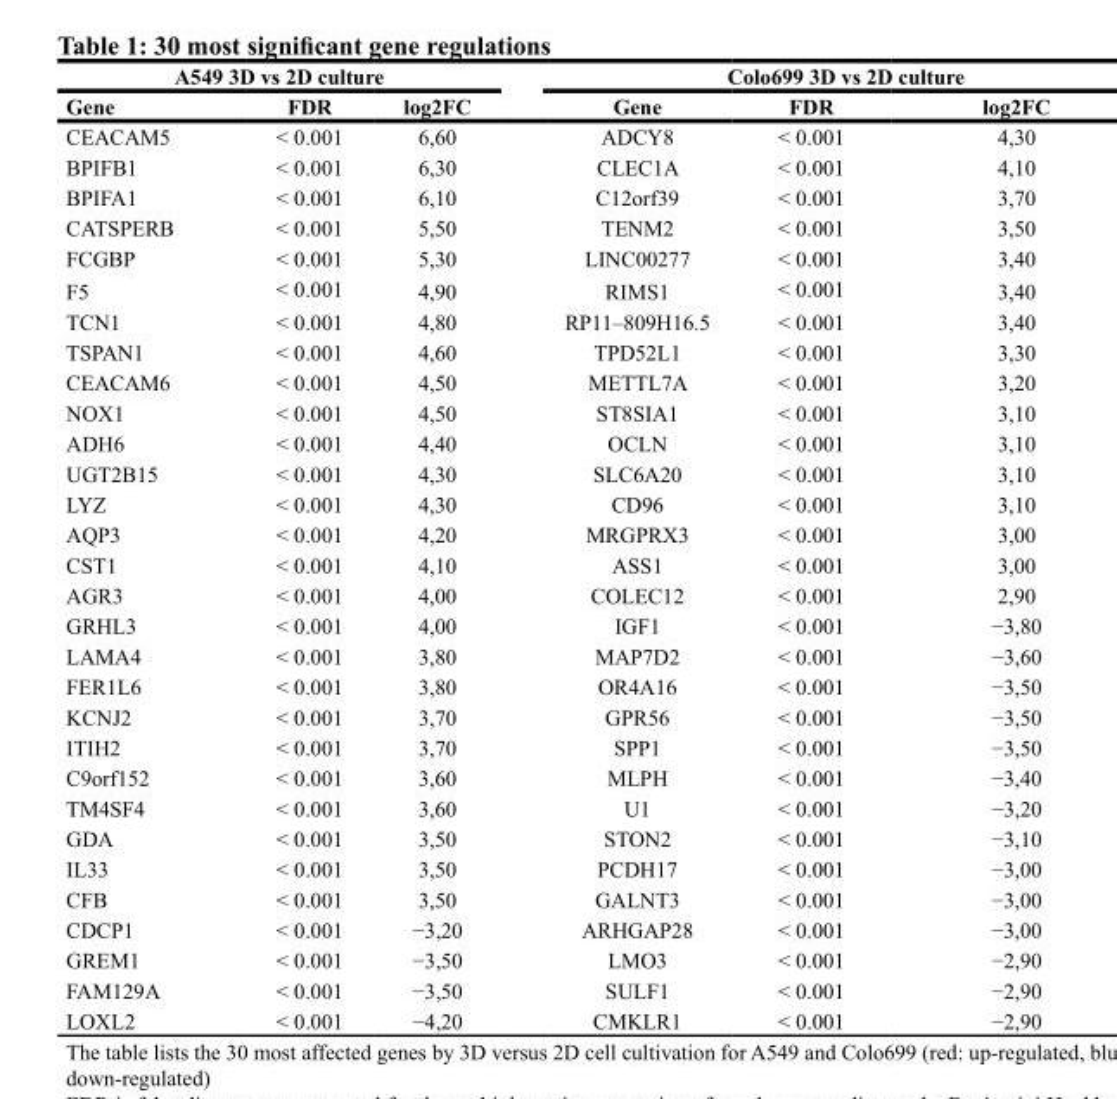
<table><thead><tr><td colspan="3">A549 3D vs 2D culture</td><td colspan="3">Colo699 3D vs 2D culture</td></tr><tr><td>Gene</td><td>FDR</td><td>log2FC</td><td>Gene</td><td>FDR</td><td>log2FC</td></tr></thead><tbody><tr><td>CEACAM5</td><td>&lt; 0.001</td><td>6,60</td><td>ADCY8</td><td>&lt; 0.001</td><td>4,30</td></tr><tr><td>BPIFB1</td><td>&lt; 0.001</td><td>6,30</td><td>CLEC1A</td><td>&lt; 0.001</td><td>4,10</td></tr><tr><td>BPIFA1</td><td>&lt; 0.001</td><td>6,10</td><td>C12orf39</td><td>&lt; 0.001</td><td>3,70</td></tr><tr><td>CATSPERB</td><td>&lt; 0.001</td><td>5,50</td><td>TENM2</td><td>&lt; 0.001</td><td>3,50</td></tr><tr><td>FCGBP</td><td>&lt; 0.001</td><td>5,30</td><td>LINC00277</td><td>&lt; 0.001</td><td>3,40</td></tr><tr><td>F5</td><td>&lt; 0.001</td><td>4,90</td><td>RIMS1</td><td>&lt; 0.001</td><td>3,40</td></tr><tr><td>TCN1</td><td>&lt; 0.001</td><td>4,80</td><td>RP11–809H16.5</td><td>&lt; 0.001</td><td>3,40</td></tr><tr><td>TSPAN1</td><td>&lt; 0.001</td><td>4,60</td><td>TPD52L1</td><td>&lt; 0.001</td><td>3,30</td></tr><tr><td>CEACAM6</td><td>&lt; 0.001</td><td>4,50</td><td>METTL7A</td><td>&lt; 0.001</td><td>3,20</td></tr><tr><td>NOX1</td><td>&lt; 0.001</td><td>4,50</td><td>ST8SIA1</td><td>&lt; 0.001</td><td>3,10</td></tr><tr><td>ADH6</td><td>&lt; 0.001</td><td>4,40</td><td>OCLN</td><td>&lt; 0.001</td><td>3,10</td></tr><tr><td>UGT2B15</td><td>&lt; 0.001</td><td>4,30</td><td>SLC6A20</td><td>&lt; 0.001</td><td>3,10</td></tr><tr><td>LYZ</td><td>&lt; 0.001</td><td>4,30</td><td>CD96</td><td>&lt; 0.001</td><td>3,10</td></tr><tr><td>AQP3</td><td>&lt; 0.001</td><td>4,20</td><td>MRGPRX3</td><td>&lt; 0.001</td><td>3,00</td></tr><tr><td>CST1</td><td>&lt; 0.001</td><td>4,10</td><td>ASS1</td><td>&lt; 0.001</td><td>3,00</td></tr><tr><td>AGR3</td><td>&lt; 0.001</td><td>4,00</td><td>COLEC12</td><td>&lt; 0.001</td><td>2,90</td></tr><tr><td>GRHL3</td><td>&lt; 0.001</td><td>4,00</td><td>IGF1</td><td>&lt; 0.001</td><td>−3,80</td></tr><tr><td>LAMA4</td><td>&lt; 0.001</td><td>3,80</td><td>MAP7D2</td><td>&lt; 0.001</td><td>−3,60</td></tr><tr><td>FER1L6</td><td>&lt; 0.001</td><td>3,80</td><td>OR4A16</td><td>&lt; 0.001</td><td>−3,50</td></tr><tr><td>KCNJ2</td><td>&lt; 0.001</td><td>3,70</td><td>GPR56</td><td>&lt; 0.001</td><td>−3,50</td></tr><tr><td>ITIH2</td><td>&lt; 0.001</td><td>3,70</td><td>SPP1</td><td>&lt; 0.001</td><td>−3,50</td></tr><tr><td>C9orf152</td><td>&lt; 0.001</td><td>3,60</td><td>MLPH</td><td>&lt; 0.001</td><td>−3,40</td></tr><tr><td>TM4SF4</td><td>&lt; 0.001</td><td>3,60</td><td>U1</td><td>&lt; 0.001</td><td>−3,20</td></tr><tr><td>GDA</td><td>&lt; 0.001</td><td>3,50</td><td>STON2</td><td>&lt; 0.001</td><td>−3,10</td></tr><tr><td>IL33</td><td>&lt; 0.001</td><td>3,50</td><td>PCDH17</td><td>&lt; 0.001</td><td>−3,00</td></tr><tr><td>CFB</td><td>&lt; 0.001</td><td>3,50</td><td>GALNT3</td><td>&lt; 0.001</td><td>−3,00</td></tr><tr><td>CDCP1</td><td>&lt; 0.001</td><td>−3,20</td><td>ARHGAP28</td><td>&lt; 0.001</td><td>−3,00</td></tr><tr><td>GREM1</td><td>&lt; 0.001</td><td>−3,50</td><td>LMO3</td><td>&lt; 0.001</td><td>−2,90</td></tr><tr><td>FAM129A</td><td>&lt; 0.001</td><td>−3,50</td><td>SULF1</td><td>&lt; 0.001</td><td>−2,90</td></tr><tr><td>LOXL2</td><td>&lt; 0.001</td><td>−4,20</td><td>CMKLR1</td><td>&lt; 0.001</td><td>−2,90</td></tr></tbody></table>